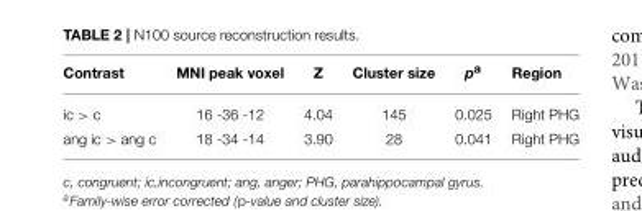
<table><thead><tr><td>Contrast</td><td>MNI peak voxel</td><td>Z</td><td>Cluster size</td><td>p<sup>a</sup></td><td>Region</td></tr></thead><tbody><tr><td>ic &gt; c</td><td>16 -36 -12</td><td>4.04</td><td>145</td><td>0.025</td><td>Right PHG</td></tr><tr><td>ang ic &gt; ang c</td><td>18 -34 -14</td><td>3.90</td><td>28</td><td>0.041</td><td>Right PHG</td></tr></tbody></table>